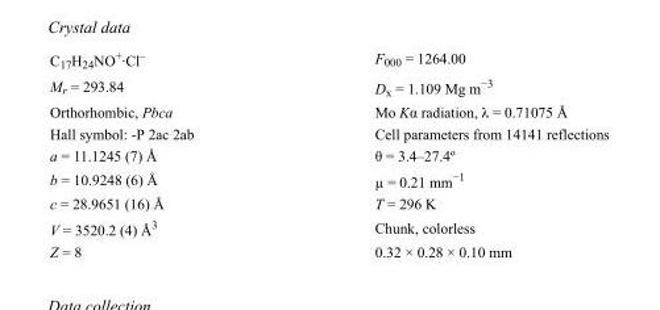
<table><tbody><tr><td>C<sub>17</sub>H<sub>24</sub>NO<sup>+</sup>·Cl<sup>–</sup></td><td>F000 = 1264.00</td></tr><tr><td>M<sub>r</sub> = 293.84</td><td>D<sub>x</sub> = 1.109 Mg m<sup>−3</sup></td></tr><tr><td>Orthorhombic, Pbca</td><td>Mo Kα radiation, λ = 0.71075 Å</td></tr><tr><td>Hall symbol: -P 2ac 2ab</td><td>Cell parameters from 14141 reflections</td></tr><tr><td>a = 11.1245 (7) Å</td><td>θ = 3.4–27.4º</td></tr><tr><td>b = 10.9248 (6) Å</td><td>µ = 0.21 mm<sup>−1</sup></td></tr><tr><td>c = 28.9651 (16) Å</td><td>T = 296 K</td></tr><tr><td>V = 3520.2 (4) Å<sup>3</sup></td><td>Chunk, colorless</td></tr><tr><td>Z = 8</td><td>0.32 × 0.28 × 0.10 mm</td></tr></tbody></table>